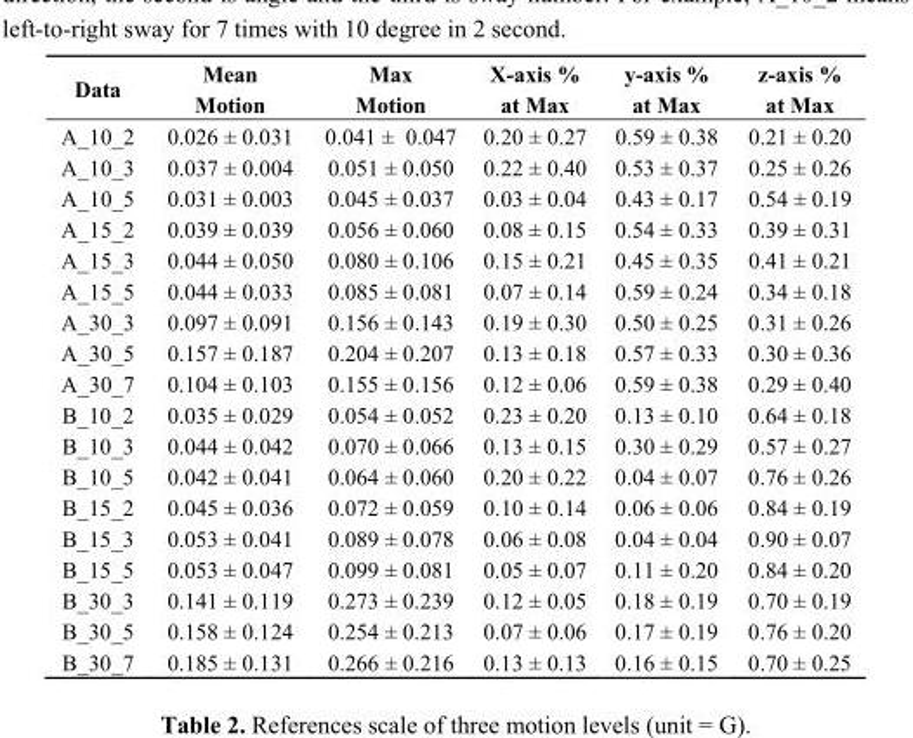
<table><thead><tr><td>Data</td><td>Mean Motion</td><td>Max Motion</td><td>X-axis % at Max</td><td>y-axis % at Max</td><td>z-axis % at Max</td></tr></thead><tbody><tr><td>A_10_2</td><td>0.026 ± 0.031</td><td>0.041 ± 0.047</td><td>0.20 ± 0.27</td><td>0.59 ± 0.38</td><td>0.21 ± 0.20</td></tr><tr><td>A_10_3</td><td>0.037 ± 0.004</td><td>0.051 ± 0.050</td><td>0.22 ± 0.40</td><td>0.53 ± 0.37</td><td>0.25 ± 0.26</td></tr><tr><td>A_10_5</td><td>0.031 ± 0.003</td><td>0.045 ± 0.037</td><td>0.03 ± 0.04</td><td>0.43 ± 0.17</td><td>0.54 ± 0.19</td></tr><tr><td>A_15_2</td><td>0.039 ± 0.039</td><td>0.056 ± 0.060</td><td>0.08 ± 0.15</td><td>0.54 ± 0.33</td><td>0.39 ± 0.31</td></tr><tr><td>A_15_3</td><td>0.044 ± 0.050</td><td>0.080 ± 0.106</td><td>0.15 ± 0.21</td><td>0.45 ± 0.35</td><td>0.41 ± 0.21</td></tr><tr><td>A_15_5</td><td>0.044 ± 0.033</td><td>0.085 ± 0.081</td><td>0.07 ± 0.14</td><td>0.59 ± 0.24</td><td>0.34 ± 0.18</td></tr><tr><td>A_30_3</td><td>0.097 ± 0.091</td><td>0.156 ± 0.143</td><td>0.19 ± 0.30</td><td>0.50 ± 0.25</td><td>0.31 ± 0.26</td></tr><tr><td>A_30_5</td><td>0.157 ± 0.187</td><td>0.204 ± 0.207</td><td>0.13 ± 0.18</td><td>0.57 ± 0.33</td><td>0.30 ± 0.36</td></tr><tr><td>A_30_7</td><td>0.104 ± 0.103</td><td>0.155 ± 0.156</td><td>0.12 ± 0.06</td><td>0.59 ± 0.38</td><td>0.29 ± 0.40</td></tr><tr><td>B_10_2</td><td>0.035 ± 0.029</td><td>0.054 ± 0.052</td><td>0.23 ± 0.20</td><td>0.13 ± 0.10</td><td>0.64 ± 0.18</td></tr><tr><td>B_10_3</td><td>0.044 ± 0.042</td><td>0.070 ± 0.066</td><td>0.13 ± 0.15</td><td>0.30 ± 0.29</td><td>0.57 ± 0.27</td></tr><tr><td>B_10_5</td><td>0.042 ± 0.041</td><td>0.064 ± 0.060</td><td>0.20 ± 0.22</td><td>0.04 ± 0.07</td><td>0.76 ± 0.26</td></tr><tr><td>B_15_2</td><td>0.045 ± 0.036</td><td>0.072 ± 0.059</td><td>0.10 ± 0.14</td><td>0.06 ± 0.06</td><td>0.84 ± 0.19</td></tr><tr><td>B_15_3</td><td>0.053 ± 0.041</td><td>0.089 ± 0.078</td><td>0.06 ± 0.08</td><td>0.04 ± 0.04</td><td>0.90 ± 0.07</td></tr><tr><td>B_15_5</td><td>0.053 ± 0.047</td><td>0.099 ± 0.081</td><td>0.05 ± 0.07</td><td>0.11 ± 0.20</td><td>0.84 ± 0.20</td></tr><tr><td>B_30_3</td><td>0.141 ± 0.119</td><td>0.273 ± 0.239</td><td>0.12 ± 0.05</td><td>0.18 ± 0.19</td><td>0.70 ± 0.19</td></tr><tr><td>B_30_5</td><td>0.158 ± 0.124</td><td>0.254 ± 0.213</td><td>0.07 ± 0.06</td><td>0.17 ± 0.19</td><td>0.76 ± 0.20</td></tr><tr><td>B_30_7</td><td>0.185 ± 0.131</td><td>0.266 ± 0.216</td><td>0.13 ± 0.13</td><td>0.16 ± 0.15</td><td>0.70 ± 0.25</td></tr></tbody></table>